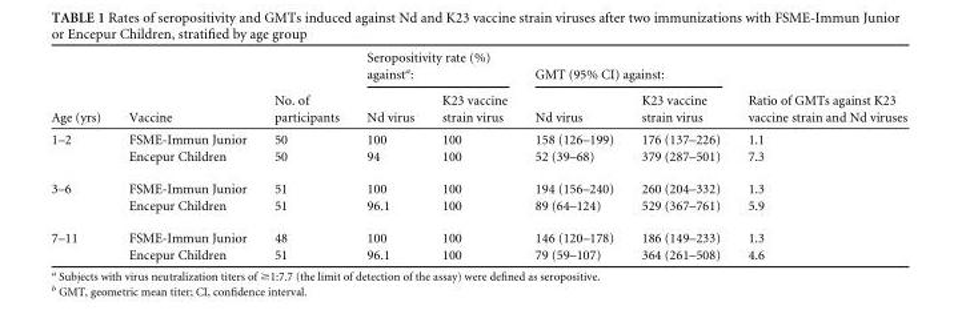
<table><thead><tr><td rowspan="2">Age (yrs)</td><td rowspan="2">Vaccine</td><td rowspan="2">No. of participants</td><td colspan="2">Seropositivity rate (%) against<sup>a</sup>:</td><td colspan="2">GMT (95% CI) against:</td><td rowspan="2">Ratio of GMTs against K23 vaccine strain and Nd viruses</td></tr><tr><td>Nd virus</td><td>K23 vaccine strain virus</td><td>Nd virus</td><td>K23 vaccine strain virus</td></tr></thead><tbody><tr><td rowspan="2">1–2</td><td>FSME-Immun Junior</td><td>50</td><td>100</td><td>100</td><td>158 (126–199)</td><td>176 (137–226)</td><td>1.1</td></tr><tr><td>Encepur Children</td><td>50</td><td>94</td><td>100</td><td>52 (39–68)</td><td>379 (287–501)</td><td>7.3</td></tr><tr><td rowspan="2">3–6</td><td>FSME-Immun Junior</td><td>51</td><td>100</td><td>100</td><td>194 (156–240)</td><td>260 (204–332)</td><td>1.3</td></tr><tr><td>Encepur Children</td><td>51</td><td>96.1</td><td>100</td><td>89 (64–124)</td><td>529 (367–761)</td><td>5.9</td></tr><tr><td rowspan="2">7–11</td><td>FSME-Immun Junior</td><td>48</td><td>100</td><td>100</td><td>146 (120–178)</td><td>186 (149–233)</td><td>1.3</td></tr><tr><td>Encepur Children</td><td>51</td><td>96.1</td><td>100</td><td>79 (59–107)</td><td>364 (261–508)</td><td>4.6</td></tr></tbody></table>